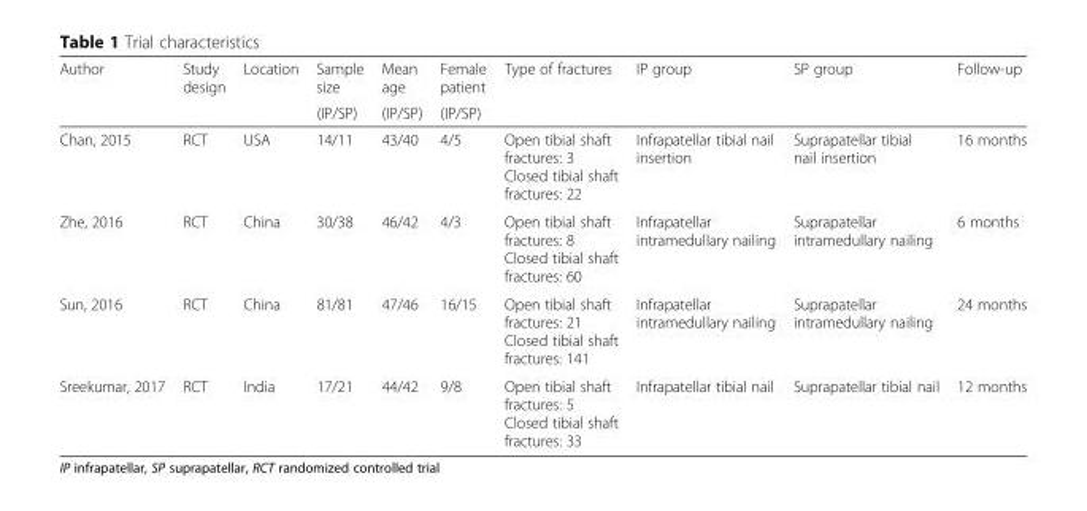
<table><thead><tr><td rowspan="2">Author</td><td rowspan="2">Study design</td><td rowspan="2">Location</td><td rowspan="2">Sample size (IP/SP)</td><td rowspan="2">Mean age (IP/SP)</td><td rowspan="2">Female patient (IP/SP)</td><td rowspan="2">Type of fractures</td><td rowspan="2">IP group</td><td rowspan="2">SP group</td><td rowspan="2">Follow-up</td></tr><tr></tr></thead><tbody><tr><td>Chan, 2015</td><td>RCT</td><td>USA</td><td>14/11</td><td>43/40</td><td>4/5</td><td>Open tibial shaft fractures: 3 Closed tibial shaft fractures: 22</td><td>Infrapatellar tibial nail insertion</td><td>Suprapatellar tibial nail insertion</td><td>16 months</td></tr><tr><td>Zhe, 2016</td><td>RCT</td><td>China</td><td>30/38</td><td>46/42</td><td>4/3</td><td>Open tibial shaft fractures: 8 Closed tibial shaft fractures: 60</td><td>Infrapatellar intramedullary nailing</td><td>Suprapatellar intramedullary nailing</td><td>6 months</td></tr><tr><td>Sun, 2016</td><td>RCT</td><td>China</td><td>81/81</td><td>47/46</td><td>16/15</td><td>Open tibial shaft fractures: 21 Closed tibial shaft fractures: 141</td><td>Infrapatellar intramedullary nailing</td><td>Suprapatellar intramedullary nailing</td><td>24 months</td></tr><tr><td>Sreekumar, 2017</td><td>RCT</td><td>India</td><td>17/21</td><td>44/42</td><td>9/8</td><td>Open tibial shaft fractures: 5 Closed tibial shaft fractures: 33</td><td>Infrapatellar tibial nail</td><td>Suprapatellar tibial nail</td><td>12 months</td></tr></tbody></table>